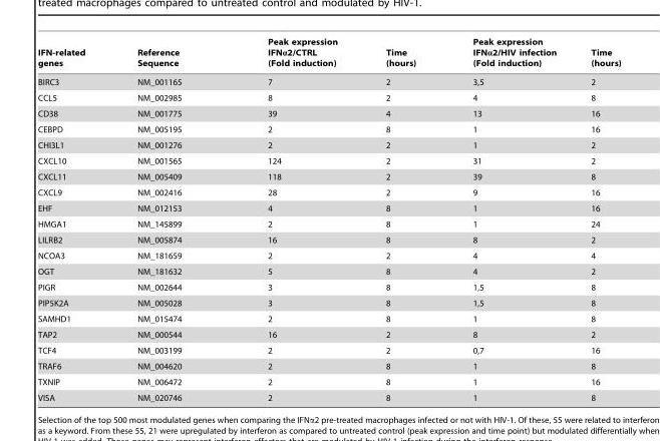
<table><thead><tr><td>IFN-related genes</td><td>Reference Sequence</td><td>Peak expression IFNα2/CTRL (Fold induction)</td><td>Time (hours)</td><td>Peak expression IFNα2/HIV infection (Fold induction)</td><td>Time (hours)</td></tr></thead><tbody><tr><td>BIRC3</td><td>NM_001165</td><td>7</td><td>2</td><td>3,5</td><td>2</td></tr><tr><td>CCL5</td><td>NM_002985</td><td>8</td><td>2</td><td>4</td><td>8</td></tr><tr><td>CD38</td><td>NM_001775</td><td>39</td><td>4</td><td>13</td><td>16</td></tr><tr><td>CEBPD</td><td>NM_005195</td><td>2</td><td>8</td><td>1</td><td>16</td></tr><tr><td>CHI3L1</td><td>NM_001276</td><td>2</td><td>2</td><td>1</td><td>2</td></tr><tr><td>CXCL10</td><td>NM_001565</td><td>124</td><td>2</td><td>31</td><td>2</td></tr><tr><td>CXCL11</td><td>NM_005409</td><td>118</td><td>2</td><td>39</td><td>8</td></tr><tr><td>CXCL9</td><td>NM_002416</td><td>28</td><td>2</td><td>9</td><td>16</td></tr><tr><td>EHF</td><td>NM_012153</td><td>4</td><td>8</td><td>1</td><td>16</td></tr><tr><td>HMGA1</td><td>NM_145899</td><td>2</td><td>8</td><td>1</td><td>24</td></tr><tr><td>LILRB2</td><td>NM_005874</td><td>16</td><td>8</td><td>8</td><td>2</td></tr><tr><td>NCOA3</td><td>NM_181659</td><td>2</td><td>2</td><td>4</td><td>4</td></tr><tr><td>OGT</td><td>NM_181632</td><td>5</td><td>8</td><td>4</td><td>2</td></tr><tr><td>PIGR</td><td>NM_002644</td><td>3</td><td>8</td><td>1,5</td><td>8</td></tr><tr><td>PIP5K2A</td><td>NM_005028</td><td>3</td><td>8</td><td>1,5</td><td>8</td></tr><tr><td>SAMHD1</td><td>NM_015474</td><td>2</td><td>8</td><td>1</td><td>8</td></tr><tr><td>TAP2</td><td>NM_000544</td><td>16</td><td>2</td><td>8</td><td>2</td></tr><tr><td>TCF4</td><td>NM_003199</td><td>2</td><td>2</td><td>0,7</td><td>16</td></tr><tr><td>TRAF6</td><td>NM_004620</td><td>2</td><td>8</td><td>1</td><td>8</td></tr><tr><td>TXNIP</td><td>NM_006472</td><td>2</td><td>8</td><td>1</td><td>16</td></tr><tr><td>VISA</td><td>NM_020746</td><td>2</td><td>8</td><td>1</td><td>8</td></tr></tbody></table>